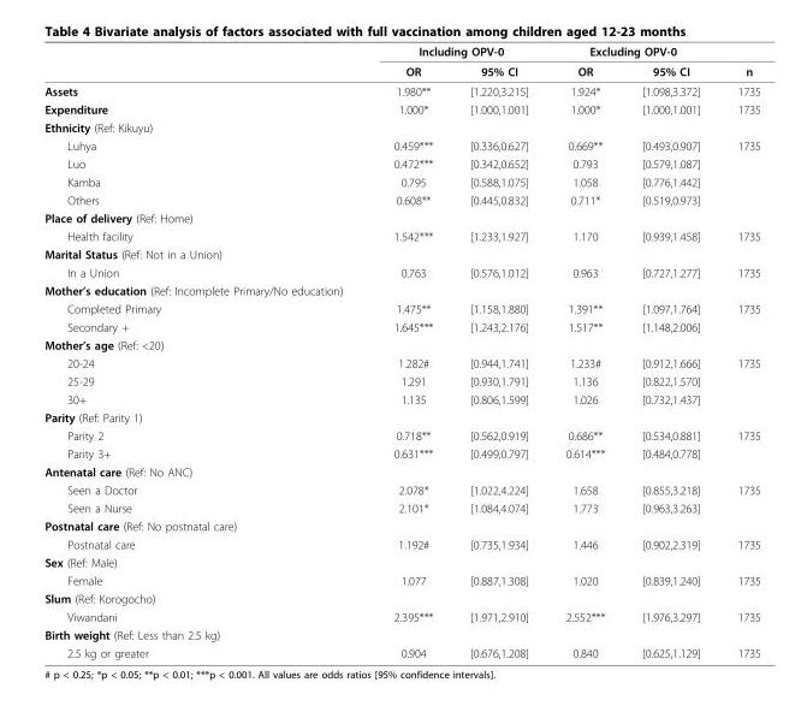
<table><thead><tr><td rowspan="2"></td><td colspan="2">Including OPV-0</td><td colspan="2">Excluding OPV-0</td><td rowspan="2">n</td></tr><tr><td>OR</td><td>95% CI</td><td>OR</td><td>95% CI</td></tr></thead><tbody><tr><td>Assets</td><td>1.980**</td><td>[1.220,3.215]</td><td>1.924*</td><td>[1.098,3.372]</td><td>1735</td></tr><tr><td>Expenditure</td><td>1.000*</td><td>[1.000,1.001]</td><td>1.000*</td><td>[1.000,1.001]</td><td>1735</td></tr><tr><td colspan="6">Ethnicity (Ref: Kikuyu)</td></tr><tr><td>Luhya</td><td>0.459***</td><td>[0.336,0.627]</td><td>0.669**</td><td>[0.493,0.907]</td><td>1735</td></tr><tr><td>Luo</td><td>0.472***</td><td>[0.342,0.652]</td><td>0.793</td><td>[0.579,1.087]</td><td></td></tr><tr><td>Kamba</td><td>0.795</td><td>[0.588,1.075]</td><td>1.058</td><td>[0.776,1.442]</td><td></td></tr><tr><td>Others</td><td>0.608**</td><td>[0.445,0.832]</td><td>0.711*</td><td>[0.519,0.973]</td><td></td></tr><tr><td colspan="6">Place of delivery (Ref: Home)</td></tr><tr><td>Health facility</td><td>1.542***</td><td>[1.233,1.927]</td><td>1.170</td><td>[0.939,1.458]</td><td>1735</td></tr><tr><td colspan="6">Marital Status (Ref: Not in a Union)</td></tr><tr><td>In a Union</td><td>0.763</td><td>[0.576,1.012]</td><td>0.963</td><td>[0.727,1.277]</td><td>1735</td></tr><tr><td colspan="6">Mother’s education (Ref: Incomplete Primary/No education)</td></tr><tr><td>Completed Primary</td><td>1.475**</td><td>[1.158,1.880]</td><td>1.391**</td><td>[1.097,1.764]</td><td>1735</td></tr><tr><td>Secondary +</td><td>1.645***</td><td>[1.243,2.176]</td><td>1.517**</td><td>[1.148,2.006]</td><td></td></tr><tr><td colspan="6">Mother’s age (Ref: &lt;20)</td></tr><tr><td>20-24</td><td>1.282#</td><td>[0.944,1.741]</td><td>1.233#</td><td>[0.912,1.666]</td><td>1735</td></tr><tr><td>25-29</td><td>1.291</td><td>[0.930,1.791]</td><td>1.136</td><td>[0.822,1.570]</td><td></td></tr><tr><td>30+</td><td>1.135</td><td>[0.806,1.599]</td><td>1.026</td><td>[0.732,1.437]</td><td></td></tr><tr><td colspan="6">Parity (Ref: Parity 1)</td></tr><tr><td>Parity 2</td><td>0.718**</td><td>[0.562,0.919]</td><td>0.686**</td><td>[0.534,0.881]</td><td>1735</td></tr><tr><td>Parity 3+</td><td>0.631***</td><td>[0.499,0.797]</td><td>0.614***</td><td>[0.484,0.778]</td><td></td></tr><tr><td colspan="6">Antenatal care (Ref: No ANC)</td></tr><tr><td>Seen a Doctor</td><td>2.078*</td><td>[1.022,4.224]</td><td>1.658</td><td>[0.855,3.218]</td><td>1735</td></tr><tr><td>Seen a Nurse</td><td>2.101*</td><td>[1.084,4.074]</td><td>1.773</td><td>[0.963,3.263]</td><td></td></tr><tr><td colspan="6">Postnatal care (Ref: No postnatal care)</td></tr><tr><td>Postnatal care</td><td>1.192#</td><td>[0.735,1.934]</td><td>1.446</td><td>[0.902,2.319]</td><td>1735</td></tr><tr><td colspan="6">Sex (Ref: Male)</td></tr><tr><td>Female</td><td>1.077</td><td>[0.887,1.308]</td><td>1.020</td><td>[0.839,1.240]</td><td>1735</td></tr><tr><td colspan="6">Slum (Ref: Korogocho)</td></tr><tr><td>Viwandani</td><td>2.395***</td><td>[1.971,2.910]</td><td>2.552***</td><td>[1.976,3.297]</td><td>1735</td></tr><tr><td colspan="6">Birth weight (Ref: Less than 2.5 kg)</td></tr><tr><td>2.5 kg or greater</td><td>0.904</td><td>[0.676,1.208]</td><td>0.840</td><td>[0.625,1.129]</td><td>1735</td></tr></tbody></table>